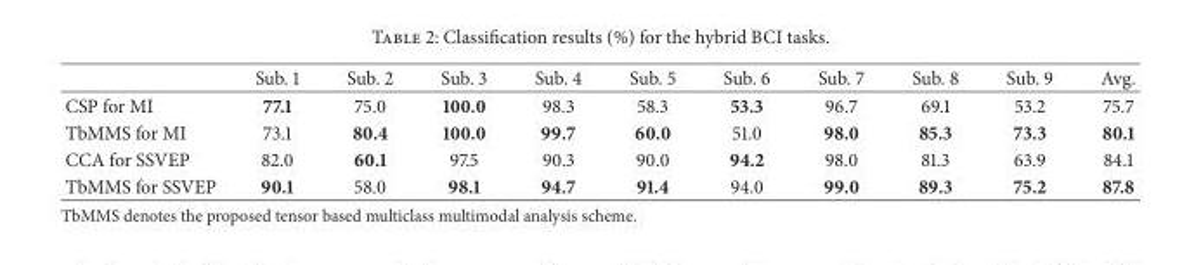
<table><thead><tr><td></td><td>Sub. 1</td><td>Sub. 2</td><td>Sub. 3</td><td>Sub. 4</td><td>Sub. 5</td><td>Sub. 6</td><td>Sub. 7</td><td>Sub. 8</td><td>Sub. 9</td><td>Avg.</td></tr></thead><tbody><tr><td>CSP for MI</td><td>77.1</td><td>75.0</td><td>100.0</td><td>98.3</td><td>58.3</td><td>53.3</td><td>96.7</td><td>69.1</td><td>53.2</td><td>75.7</td></tr><tr><td>TbMMS for MI</td><td>73.1</td><td>80.4</td><td>100.0</td><td>99.7</td><td>60.0</td><td>51.0</td><td>98.0</td><td>85.3</td><td>73.3</td><td>80.1</td></tr><tr><td>CCA for SSVEP</td><td>82.0</td><td>60.1</td><td>97.5</td><td>90.3</td><td>90.0</td><td>94.2</td><td>98.0</td><td>81.3</td><td>63.9</td><td>84.1</td></tr><tr><td>TbMMS for SSVEP</td><td>90.1</td><td>58.0</td><td>98.1</td><td>94.7</td><td>91.4</td><td>94.0</td><td>99.0</td><td>89.3</td><td>75.2</td><td>87.8</td></tr></tbody></table>